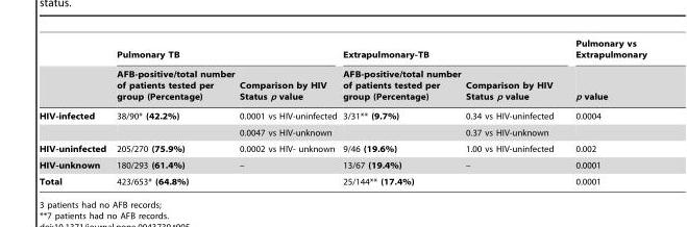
<table><thead><tr><td rowspan="2"></td><td colspan="2">Pulmonary TB</td><td colspan="2">Extrapulmonary-TB</td><td rowspan="2">Pulmonary vs Extrapulmonary p value</td></tr><tr><td>AFB-positive/total number of patients tested per group (Percentage)</td><td>Comparison by HIV Status p value</td><td>AFB-positive/total number of patients tested per group (Percentage)</td><td>Comparison by HIV Status p value</td></tr></thead><tbody><tr><td rowspan="2">HIV-infected</td><td>38/90* (42.2%)</td><td>0.0001 vs HIV-uninfected</td><td>3/31** (9.7%)</td><td>0.34 vs HIV-uninfected</td><td>0.0004</td></tr><tr><td></td><td>0.0047 vs HIV-unknown</td><td></td><td>0.37 vs HIV-unknown</td><td></td></tr><tr><td>HIV-uninfected</td><td>205/270 (75.9%)</td><td>0.0002 vs HIV- unknown</td><td>9/46 (19.6%)</td><td>1.00 vs HIV-uninfected</td><td>0.002</td></tr><tr><td>HIV-unknown</td><td>180/293 (61.4%)</td><td>–</td><td>13/67 (19.4%)</td><td>–</td><td>0.0001</td></tr><tr><td>Total</td><td>423/653* (64.8%)</td><td></td><td>25/144** (17.4%)</td><td></td><td>0.0001</td></tr></tbody></table>